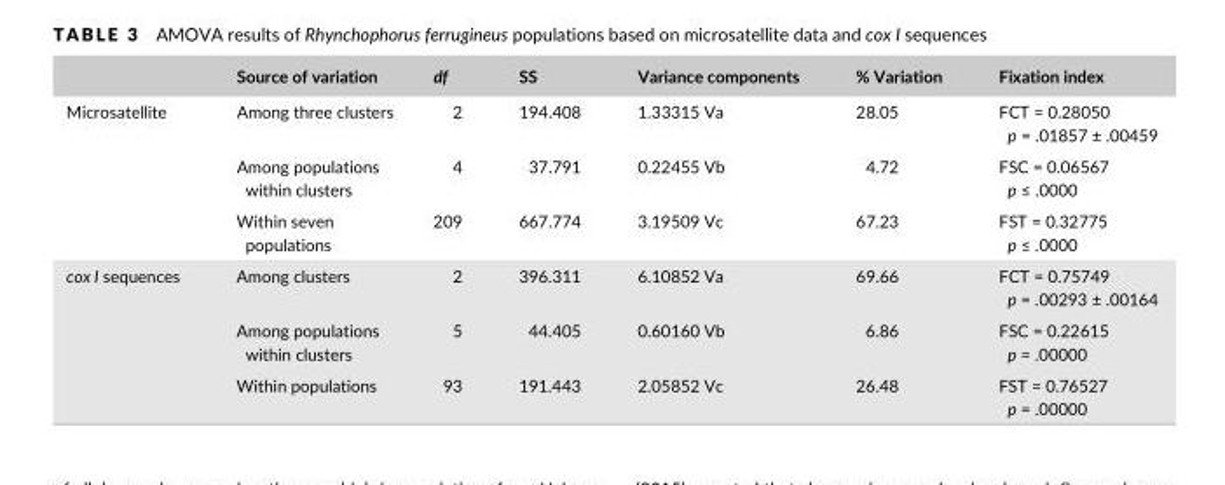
<table><thead><tr><td></td><td>Source of variation</td><td>df</td><td>SS</td><td>Variance components</td><td>% Variation</td><td>Fixation index</td></tr></thead><tbody><tr><td rowspan="3">Microsatellite</td><td>Among three clusters</td><td>2</td><td>194.408</td><td>1.33315 Va</td><td>28.05</td><td>FCT = 0.28050 p = .01857 ± .00459</td></tr><tr><td>Among populations within clusters</td><td>4</td><td>37.791</td><td>0.22455 Vb</td><td>4.72</td><td>FSC = 0.06567 p ≤ .0000</td></tr><tr><td>Within seven populations</td><td>209</td><td>667.774</td><td>3.19509 Vc</td><td>67.23</td><td>FST = 0.32775 p ≤ .0000</td></tr><tr><td rowspan="3">cox I sequences</td><td>Among clusters</td><td>2</td><td>396.311</td><td>6.10852 Va</td><td>69.66</td><td>FCT = 0.75749 p = .00293 ± .00164</td></tr><tr><td>Among populations within clusters</td><td>5</td><td>44.405</td><td>0.60160 Vb</td><td>6.86</td><td>FSC = 0.22615 p = .00000</td></tr><tr><td>Within populations</td><td>93</td><td>191.443</td><td>2.05852 Vc</td><td>26.48</td><td>FST = 0.76527 p = .00000</td></tr></tbody></table>